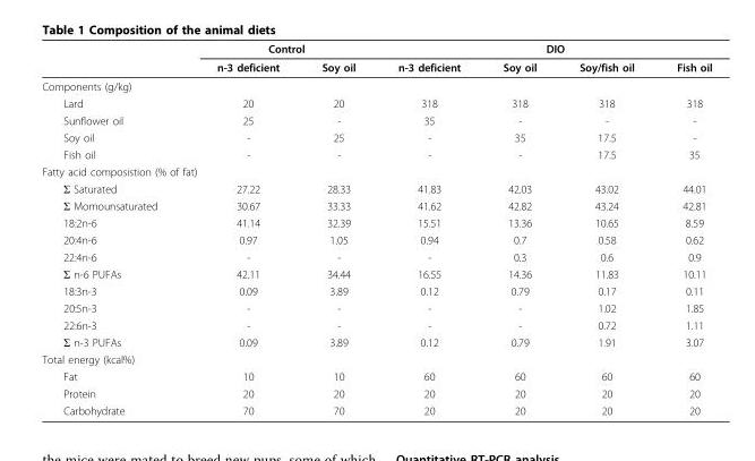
<table><thead><tr><td rowspan="2"></td><td colspan="2">Control</td><td colspan="4">DIO</td></tr><tr><td>n-3 deficient</td><td>Soy oil</td><td>n-3 deficient</td><td>Soy oil</td><td>Soy/fish oil</td><td>Fish oil</td></tr></thead><tbody><tr><td colspan="7">Components (g/kg)</td></tr><tr><td>Lard</td><td>20</td><td>20</td><td>318</td><td>318</td><td>318</td><td>318</td></tr><tr><td>Sunflower oil</td><td>25</td><td>-</td><td>35</td><td>-</td><td>-</td><td>-</td></tr><tr><td>Soy oil</td><td>-</td><td>25</td><td>-</td><td>35</td><td>17.5</td><td>-</td></tr><tr><td>Fish oil</td><td>-</td><td>-</td><td>-</td><td>-</td><td>17.5</td><td>35</td></tr><tr><td colspan="7">Fatty acid composistion (% of fat)</td></tr><tr><td>Σ Saturated</td><td>27.22</td><td>28.33</td><td>41.83</td><td>42.03</td><td>43.02</td><td>44.01</td></tr><tr><td>Σ Momounsaturated</td><td>30.67</td><td>33.33</td><td>41.62</td><td>42.82</td><td>43.24</td><td>42.81</td></tr><tr><td>18:2n-6</td><td>41.14</td><td>32.39</td><td>15.51</td><td>13.36</td><td>10.65</td><td>8.59</td></tr><tr><td>20:4n-6</td><td>0.97</td><td>1.05</td><td>0.94</td><td>0.7</td><td>0.58</td><td>0.62</td></tr><tr><td>22:4n-6</td><td>-</td><td>-</td><td>-</td><td>0.3</td><td>0.6</td><td>0.9</td></tr><tr><td>Σ n-6 PUFAs</td><td>42.11</td><td>34.44</td><td>16.55</td><td>14.36</td><td>11.83</td><td>10.11</td></tr><tr><td>18:3n-3</td><td>0.09</td><td>3.89</td><td>0.12</td><td>0.79</td><td>0.17</td><td>0.11</td></tr><tr><td>20:5n-3</td><td>-</td><td>-</td><td>-</td><td>-</td><td>1.02</td><td>1.85</td></tr><tr><td>22:6n-3</td><td>-</td><td>-</td><td>-</td><td>-</td><td>0.72</td><td>1.11</td></tr><tr><td>Σ n-3 PUFAs</td><td>0.09</td><td>3.89</td><td>0.12</td><td>0.79</td><td>1.91</td><td>3.07</td></tr><tr><td colspan="7">Total energy (kcal%)</td></tr><tr><td>Fat</td><td>10</td><td>10</td><td>60</td><td>60</td><td>60</td><td>60</td></tr><tr><td>Protein</td><td>20</td><td>20</td><td>20</td><td>20</td><td>20</td><td>20</td></tr><tr><td>Carbohydrate</td><td>70</td><td>70</td><td>20</td><td>20</td><td>20</td><td>20</td></tr></tbody></table>